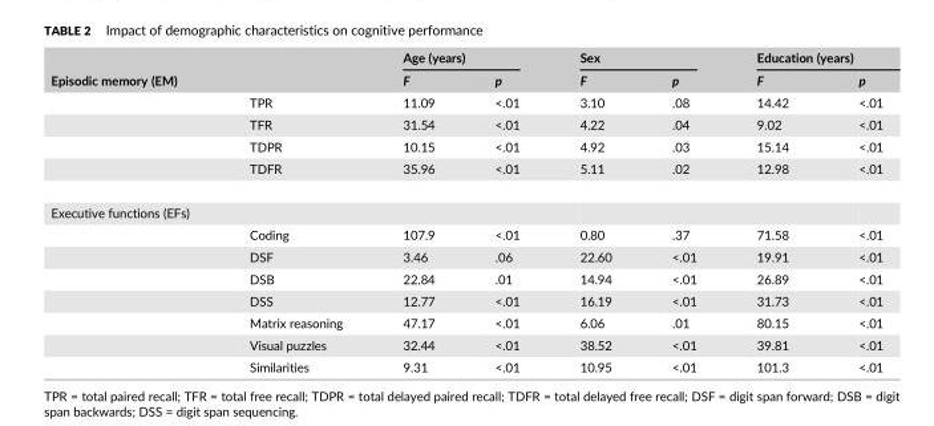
<table><thead><tr><td rowspan="2">Episodic memory (EM)</td><td rowspan="2"></td><td colspan="2">Age (years)</td><td colspan="2">Sex</td><td colspan="2">Education (years)</td></tr><tr><td>F</td><td>p</td><td>F</td><td>p</td><td>F</td><td>p</td></tr></thead><tbody><tr><td></td><td>TPR</td><td>11.09</td><td>&lt;.01</td><td>3.10</td><td>.08</td><td>14.42</td><td>&lt;.01</td></tr><tr><td></td><td>TFR</td><td>31.54</td><td>&lt;.01</td><td>4.22</td><td>.04</td><td>9.02</td><td>&lt;.01</td></tr><tr><td></td><td>TDPR</td><td>10.15</td><td>&lt;.01</td><td>4.92</td><td>.03</td><td>15.14</td><td>&lt;.01</td></tr><tr><td></td><td>TDFR</td><td>35.96</td><td>&lt;.01</td><td>5.11</td><td>.02</td><td>12.98</td><td>&lt;.01</td></tr><tr><td colspan="8">Executive functions (EFs)</td></tr><tr><td></td><td>Coding</td><td>107.9</td><td>&lt;.01</td><td>0.80</td><td>.37</td><td>71.58</td><td>&lt;.01</td></tr><tr><td></td><td>DSF</td><td>3.46</td><td>.06</td><td>22.60</td><td>&lt;.01</td><td>19.91</td><td>&lt;.01</td></tr><tr><td></td><td>DSB</td><td>22.84</td><td>.01</td><td>14.94</td><td>&lt;.01</td><td>26.89</td><td>&lt;.01</td></tr><tr><td></td><td>DSS</td><td>12.77</td><td>&lt;.01</td><td>16.19</td><td>&lt;.01</td><td>31.73</td><td>&lt;.01</td></tr><tr><td></td><td>Matrix reasoning</td><td>47.17</td><td>&lt;.01</td><td>6.06</td><td>.01</td><td>80.15</td><td>&lt;.01</td></tr><tr><td></td><td>Visual puzzles</td><td>32.44</td><td>&lt;.01</td><td>38.52</td><td>&lt;.01</td><td>39.81</td><td>&lt;.01</td></tr><tr><td></td><td>Similarities</td><td>9.31</td><td>&lt;.01</td><td>10.95</td><td>&lt;.01</td><td>101.3</td><td>&lt;.01</td></tr></tbody></table>